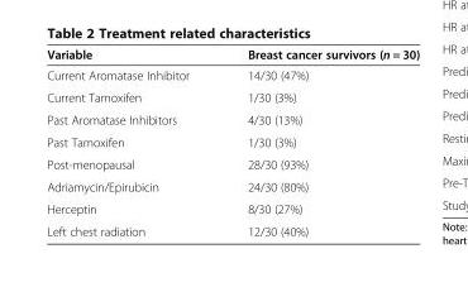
<table><thead><tr><td>Variable</td><td>Breast cancer survivors (n = 30)</td></tr></thead><tbody><tr><td>Current Aromatase Inhibitor</td><td>14/30 (47%)</td></tr><tr><td>Current Tamoxifen</td><td>1/30 (3%)</td></tr><tr><td>Past Aromatase Inhibitors</td><td>4/30 (13%)</td></tr><tr><td>Past Tamoxifen</td><td>1/30 (3%)</td></tr><tr><td>Post-menopausal</td><td>28/30 (93%)</td></tr><tr><td>Adriamycin/Epirubicin</td><td>24/30 (80%)</td></tr><tr><td>Herceptin</td><td>8/30 (27%)</td></tr><tr><td>Left chest radiation</td><td>12/30 (40%)</td></tr></tbody></table>